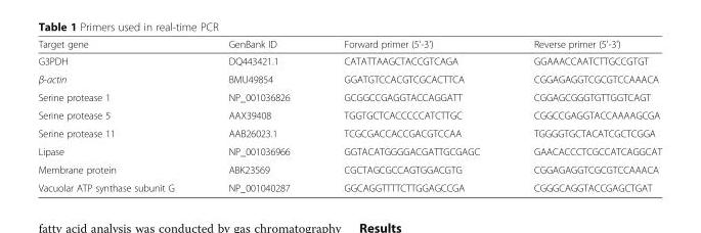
<table><thead><tr><td>Target gene</td><td>GenBank ID</td><td>Forward primer (5&#x27;-3&#x27;)</td><td>Reverse primer (5&#x27;-3&#x27;)</td></tr></thead><tbody><tr><td>G3PDH</td><td>DQ443421.1</td><td>CATATTAAGCTACCGTCAGA</td><td>GGAAACCAATCTTGCCGTGT</td></tr><tr><td>β-actin</td><td>BMU49854</td><td>GGATGTCCACGTCGCACTTCA</td><td>CGGAGAGGTCGCGTCCAAACA</td></tr><tr><td>Serine protease 1</td><td>NP_001036826</td><td>GCGGCCGAGGTACCAGGATT</td><td>CGGAGCGGGTGTTGGTCAGT</td></tr><tr><td>Serine protease 5</td><td>AAX39408</td><td>TGGTGCTCACCCCCATCTTGC</td><td>CGGCCGAGGTACCAAAAGCGA</td></tr><tr><td>Serine protease 11</td><td>AAB26023.1</td><td>TCGCGACCACCGACGTCCAA</td><td>TGGGGTGCTACATCGCTCGGA</td></tr><tr><td>Lipase</td><td>NP_001036966</td><td>GGTACATGGGGACGATTGCGAGC</td><td>GAACACCCTCGCCATCAGGCAT</td></tr><tr><td>Membrane protein</td><td>ABK23569</td><td>CGCTAGCGCCAGTGGACGTG</td><td>CGGAGAGGTCGCGTCCAAACA</td></tr><tr><td>Vacuolar ATP synthase subunit G</td><td>NP_001040287</td><td>GGCAGGTTTTCTTGGAGCCGA</td><td>CGGGCAGGTACCGAGCTGAT</td></tr></tbody></table>